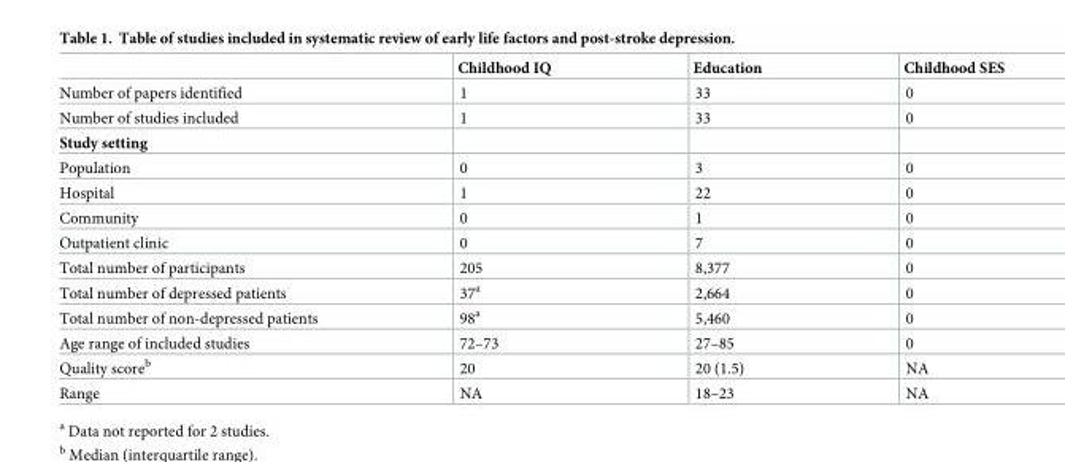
<table><thead><tr><td></td><td>Childhood IQ</td><td>Education</td><td>Childhood SES</td></tr></thead><tbody><tr><td>Number of papers identified</td><td>1</td><td>33</td><td>0</td></tr><tr><td>Number of studies included</td><td>1</td><td>33</td><td>0</td></tr><tr><td colspan="4">Study setting</td></tr><tr><td>Population</td><td>0</td><td>3</td><td>0</td></tr><tr><td>Hospital</td><td>1</td><td>22</td><td>0</td></tr><tr><td>Community</td><td>0</td><td>1</td><td>0</td></tr><tr><td>Outpatient clinic</td><td>0</td><td>7</td><td>0</td></tr><tr><td>Total number of participants</td><td>205</td><td>8,377</td><td>0</td></tr><tr><td>Total number of depressed patients</td><td>37<sup>a</sup></td><td>2,664</td><td>0</td></tr><tr><td>Total number of non-depressed patients</td><td>98<sup>a</sup></td><td>5,460</td><td>0</td></tr><tr><td>Age range of included studies</td><td>72–73</td><td>27–85</td><td>0</td></tr><tr><td>Quality score<sup>b</sup></td><td>20</td><td>20 (1.5)</td><td>NA</td></tr><tr><td>Range</td><td>NA</td><td>18–23</td><td>NA</td></tr></tbody></table>